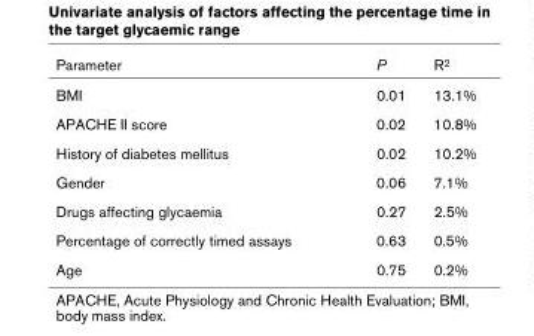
<table><thead><tr><td>Parameter</td><td>P</td><td>R<sup>2</sup></td></tr></thead><tbody><tr><td>BMI</td><td>0.01</td><td>13.1%</td></tr><tr><td>APACHE II score</td><td>0.02</td><td>10.8%</td></tr><tr><td>History of diabetes mellitus</td><td>0.02</td><td>10.2%</td></tr><tr><td>Gender</td><td>0.06</td><td>7.1%</td></tr><tr><td>Drugs affecting glycaemia</td><td>0.27</td><td>2.5%</td></tr><tr><td>Percentage of correctly timed assays</td><td>0.63</td><td>0.5%</td></tr><tr><td>Age</td><td>0.75</td><td>0.2%</td></tr></tbody></table>